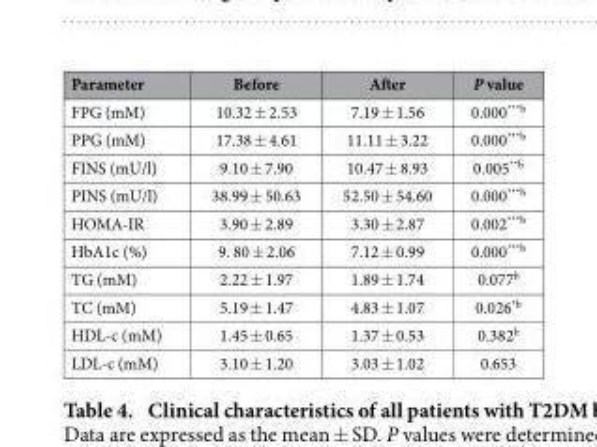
<table><thead><tr><td>Parameter</td><td>Before</td><td>After</td><td>P value</td></tr></thead><tbody><tr><td>FPG (mM)</td><td>10.32 ± 2.53</td><td>7.19 ± 1.56</td><td>0.000<sup>***b</sup></td></tr><tr><td>PPG (mM)</td><td>17.38 ± 4.61</td><td>11.11 ± 3.22</td><td>0.000<sup>***b</sup></td></tr><tr><td>FINS (mU/l)</td><td>9.10 ± 7.90</td><td>10.47 ± 8.93</td><td>0.005<sup>**b</sup></td></tr><tr><td>PINS (mU/l)</td><td>38.99 ± 50.63</td><td>52.50 ± 54.60</td><td>0.000<sup>***b</sup></td></tr><tr><td>HOMA-IR</td><td>3.90 ± 2.89</td><td>3.30 ± 2.87</td><td>0.002<sup>***b</sup></td></tr><tr><td>HbA1c (%)</td><td>9. 80 ± 2.06</td><td>7.12 ± 0.99</td><td>0.000<sup>***b</sup></td></tr><tr><td>TG (mM)</td><td>2.22 ± 1.97</td><td>1.89 ± 1.74</td><td>0.077<sup>b</sup></td></tr><tr><td>TC (mM)</td><td>5.19 ± 1.47</td><td>4.83 ± 1.07</td><td>0.026<sup>*b</sup></td></tr><tr><td>HDL-c (mM)</td><td>1.45 ± 0.65</td><td>1.37 ± 0.53</td><td>0.382<sup>b</sup></td></tr><tr><td>LDL-c (mM)</td><td>3.10 ± 1.20</td><td>3.03 ± 1.02</td><td>0.653</td></tr></tbody></table>